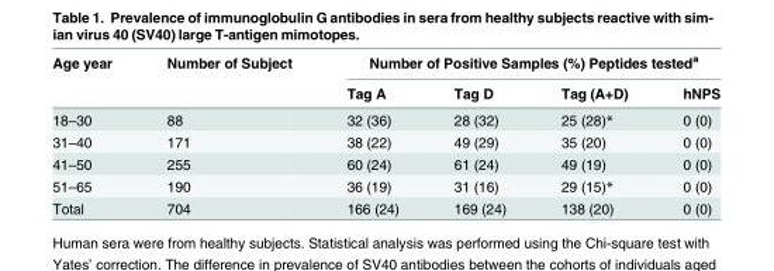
<table><thead><tr><td rowspan="2">Age year</td><td rowspan="2">Number of Subject</td><td colspan="4">Number of Positive Samples (%) Peptides tested<sup>a</sup></td></tr><tr><td>Tag A</td><td>Tag D</td><td>Tag (A+D)</td><td>hNPS</td></tr></thead><tbody><tr><td>18–30</td><td>88</td><td>32 (36)</td><td>28 (32)</td><td>25 (28)*</td><td>0 (0)</td></tr><tr><td>31–40</td><td>171</td><td>38 (22)</td><td>49 (29)</td><td>35 (20)</td><td>0 (0)</td></tr><tr><td>41–50</td><td>255</td><td>60 (24)</td><td>61 (24)</td><td>49 (19)</td><td>0 (0)</td></tr><tr><td>51–65</td><td>190</td><td>36 (19)</td><td>31 (16)</td><td>29 (15)*</td><td>0 (0)</td></tr><tr><td>Total</td><td>704</td><td>166 (24)</td><td>169 (24)</td><td>138 (20)</td><td>0 (0)</td></tr></tbody></table>